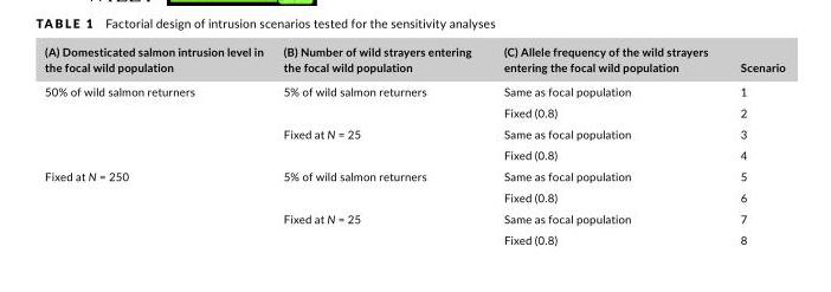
<table><thead><tr><td>(A) Domesticated salmon intrusion level in the focal wild population</td><td>(B) Number of wild strayers entering the focal wild population</td><td>(C) Allele frequency of the wild strayers entering the focal wild population</td><td>Scenario</td></tr></thead><tbody><tr><td rowspan="4">50% of wild salmon returners</td><td rowspan="2">5% of wild salmon returners</td><td>Same as focal population</td><td>1</td></tr><tr><td>Fixed (0.8)</td><td>2</td></tr><tr><td rowspan="2">Fixed at N = 25</td><td>Same as focal population</td><td>3</td></tr><tr><td>Fixed (0.8)</td><td>4</td></tr><tr><td rowspan="4">Fixed at N = 250</td><td rowspan="2">5% of wild salmon returners</td><td>Same as focal population</td><td>5</td></tr><tr><td>Fixed (0.8)</td><td>6</td></tr><tr><td rowspan="2">Fixed at N = 25</td><td>Same as focal population</td><td>7</td></tr><tr><td>Fixed (0.8)</td><td>8</td></tr></tbody></table>